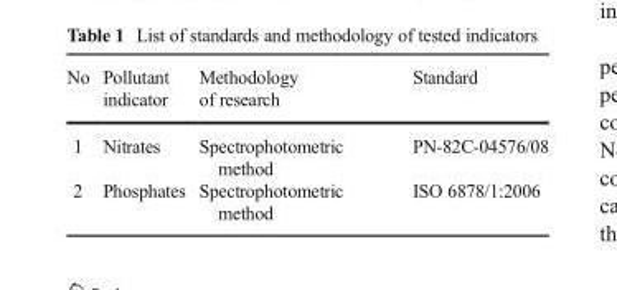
<table><thead><tr><td>No</td><td>Pollutant indicator</td><td>Methodology of research</td><td>Standard</td></tr></thead><tbody><tr><td>1</td><td>Nitrates</td><td>Spectrophotometric method</td><td>PN-82C-04576/08</td></tr><tr><td>2</td><td>Phosphates</td><td>Spectrophotometric method</td><td>ISO 6878/1:2006</td></tr></tbody></table>